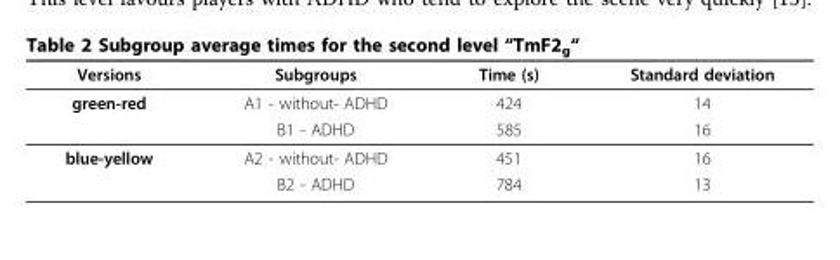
<table><thead><tr><td>Versions</td><td>Subgroups</td><td>Time (s)</td><td>Standard deviation</td></tr></thead><tbody><tr><td rowspan="2">green-red</td><td>A1 - without- ADHD</td><td>424</td><td>14</td></tr><tr><td>B1 - ADHD</td><td>585</td><td>16</td></tr><tr><td rowspan="2">blue-yellow</td><td>A2 - without- ADHD</td><td>451</td><td>16</td></tr><tr><td>B2 - ADHD</td><td>784</td><td>13</td></tr></tbody></table>